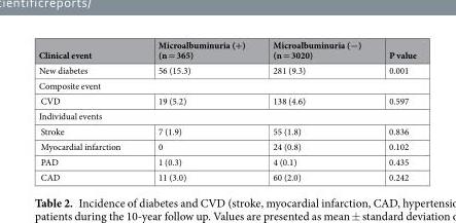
<table><thead><tr><td>Clinical event</td><td>Microalbuminuria (+) (n = 365)</td><td>Microalbuminuria (−) (n = 3020)</td><td>P value</td></tr></thead><tbody><tr><td>New diabetes</td><td>56 (15.3)</td><td>281 (9.3)</td><td>0.001</td></tr><tr><td colspan="4">Composite event</td></tr><tr><td>CVD</td><td>19 (5.2)</td><td>138 (4.6)</td><td>0.597</td></tr><tr><td colspan="4">Individual events</td></tr><tr><td>Stroke</td><td>7 (1.9)</td><td>55 (1.8)</td><td>0.836</td></tr><tr><td>Myocardial infarction</td><td>0</td><td>24 (0.8)</td><td>0.102</td></tr><tr><td>PAD</td><td>1 (0.3)</td><td>4 (0.1)</td><td>0.435</td></tr><tr><td>CAD</td><td>11 (3.0)</td><td>60 (2.0)</td><td>0.242</td></tr></tbody></table>